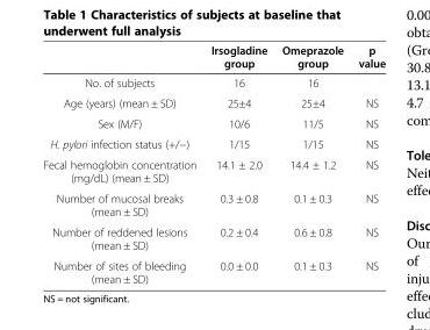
<table><thead><tr><td></td><td>Irsogladine group</td><td>Omeprazole group</td><td>p value</td></tr></thead><tbody><tr><td>No. of subjects</td><td>16</td><td>16</td><td></td></tr><tr><td>Age (years) (mean ± SD)</td><td>25±4</td><td>25±4</td><td>NS</td></tr><tr><td>Sex (M/F)</td><td>10/6</td><td>11/5</td><td>NS</td></tr><tr><td>H. pylori infection status (+/−)</td><td>1/15</td><td>1/15</td><td>NS</td></tr><tr><td>Fecal hemoglobin concentration (mg/dL) (mean ± SD)</td><td>14.1 ± 2.0</td><td>14.4 ± 1.2</td><td>NS</td></tr><tr><td>Number of mucosal breaks (mean ± SD)</td><td>0.3 ± 0.8</td><td>0.1 ± 0.3</td><td>NS</td></tr><tr><td>Number of reddened lesions (mean ± SD)</td><td>0.2 ± 0.4</td><td>0.6 ± 0.8</td><td>NS</td></tr><tr><td>Number of sites of bleeding (mean ± SD)</td><td>0.0 ± 0.0</td><td>0.1 ± 0.3</td><td>NS</td></tr></tbody></table>